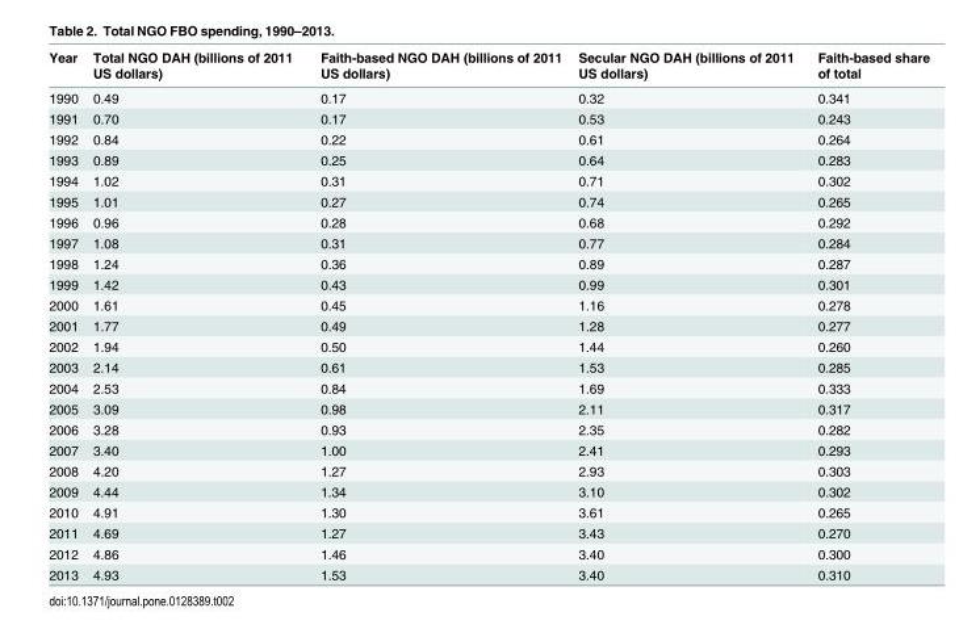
<table><thead><tr><td>Year</td><td>Total NGO DAH (billions of 2011 US dollars)</td><td>Faith-based NGO DAH (billions of 2011 US dollars)</td><td>Secular NGO DAH (billions of 2011 US dollars)</td><td>Faith-based share of total</td></tr></thead><tbody><tr><td>1990</td><td>0.49</td><td>0.17</td><td>0.32</td><td>0.341</td></tr><tr><td>1991</td><td>0.70</td><td>0.17</td><td>0.53</td><td>0.243</td></tr><tr><td>1992</td><td>0.84</td><td>0.22</td><td>0.61</td><td>0.264</td></tr><tr><td>1993</td><td>0.89</td><td>0.25</td><td>0.64</td><td>0.283</td></tr><tr><td>1994</td><td>1.02</td><td>0.31</td><td>0.71</td><td>0.302</td></tr><tr><td>1995</td><td>1.01</td><td>0.27</td><td>0.74</td><td>0.265</td></tr><tr><td>1996</td><td>0.96</td><td>0.28</td><td>0.68</td><td>0.292</td></tr><tr><td>1997</td><td>1.08</td><td>0.31</td><td>0.77</td><td>0.284</td></tr><tr><td>1998</td><td>1.24</td><td>0.36</td><td>0.89</td><td>0.287</td></tr><tr><td>1999</td><td>1.42</td><td>0.43</td><td>0.99</td><td>0.301</td></tr><tr><td>2000</td><td>1.61</td><td>0.45</td><td>1.16</td><td>0.278</td></tr><tr><td>2001</td><td>1.77</td><td>0.49</td><td>1.28</td><td>0.277</td></tr><tr><td>2002</td><td>1.94</td><td>0.50</td><td>1.44</td><td>0.260</td></tr><tr><td>2003</td><td>2.14</td><td>0.61</td><td>1.53</td><td>0.285</td></tr><tr><td>2004</td><td>2.53</td><td>0.84</td><td>1.69</td><td>0.333</td></tr><tr><td>2005</td><td>3.09</td><td>0.98</td><td>2.11</td><td>0.317</td></tr><tr><td>2006</td><td>3.28</td><td>0.93</td><td>2.35</td><td>0.282</td></tr><tr><td>2007</td><td>3.40</td><td>1.00</td><td>2.41</td><td>0.293</td></tr><tr><td>2008</td><td>4.20</td><td>1.27</td><td>2.93</td><td>0.303</td></tr><tr><td>2009</td><td>4.44</td><td>1.34</td><td>3.10</td><td>0.302</td></tr><tr><td>2010</td><td>4.91</td><td>1.30</td><td>3.61</td><td>0.265</td></tr><tr><td>2011</td><td>4.69</td><td>1.27</td><td>3.43</td><td>0.270</td></tr><tr><td>2012</td><td>4.86</td><td>1.46</td><td>3.40</td><td>0.300</td></tr><tr><td>2013</td><td>4.93</td><td>1.53</td><td>3.40</td><td>0.310</td></tr></tbody></table>